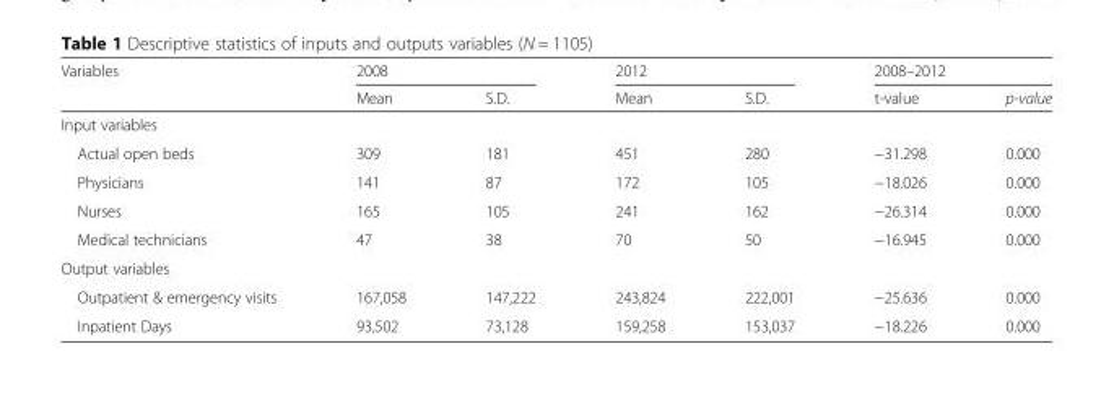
<table><thead><tr><td rowspan="2">Variables</td><td colspan="2">2008</td><td colspan="2">2012</td><td colspan="2">2008–2012</td></tr><tr><td>Mean</td><td>S.D.</td><td>Mean</td><td>S.D.</td><td>t-value</td><td>p-value</td></tr></thead><tbody><tr><td colspan="7">Input variables</td></tr><tr><td>Actual open beds</td><td>309</td><td>181</td><td>451</td><td>280</td><td>−31.298</td><td>0.000</td></tr><tr><td>Physicians</td><td>141</td><td>87</td><td>172</td><td>105</td><td>−18.026</td><td>0.000</td></tr><tr><td>Nurses</td><td>165</td><td>105</td><td>241</td><td>162</td><td>−26.314</td><td>0.000</td></tr><tr><td>Medical technicians</td><td>47</td><td>38</td><td>70</td><td>50</td><td>−16.945</td><td>0.000</td></tr><tr><td colspan="7">Output variables</td></tr><tr><td>Outpatient &amp; emergency visits</td><td>167,058</td><td>147,222</td><td>243,824</td><td>222,001</td><td>−25.636</td><td>0.000</td></tr><tr><td>Inpatient Days</td><td>93,502</td><td>73,128</td><td>159,258</td><td>153,037</td><td>−18.226</td><td>0.000</td></tr></tbody></table>